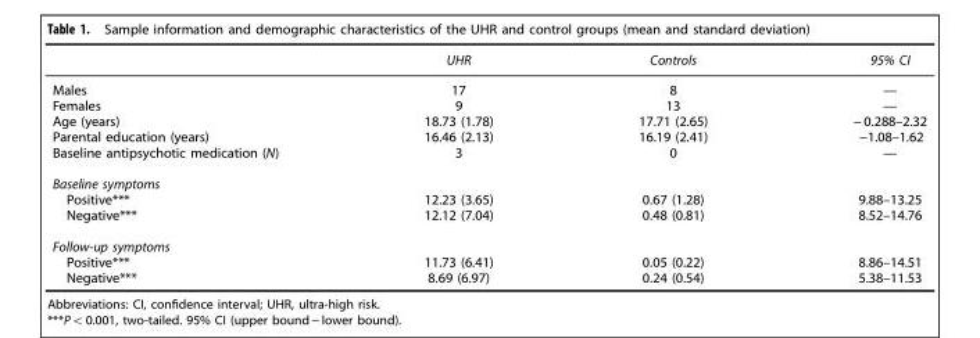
<table><thead><tr><td></td><td>UHR</td><td>Controls</td><td>95% CI</td></tr></thead><tbody><tr><td>Males</td><td>17</td><td>8</td><td>—</td></tr><tr><td>Females</td><td>9</td><td>13</td><td>—</td></tr><tr><td>Age (years)</td><td>18.73 (1.78)</td><td>17.71 (2.65)</td><td>− 0.288–2.32</td></tr><tr><td>Parental education (years)</td><td>16.46 (2.13)</td><td>16.19 (2.41)</td><td>−1.08–1.62</td></tr><tr><td>Baseline antipsychotic medication (N)</td><td>3</td><td>0</td><td>—</td></tr><tr><td colspan="4">Baseline symptoms</td></tr><tr><td>Positive***</td><td>12.23 (3.65)</td><td>0.67 (1.28)</td><td>9.88–13.25</td></tr><tr><td>Negative***</td><td>12.12 (7.04)</td><td>0.48 (0.81)</td><td>8.52–14.76</td></tr><tr><td colspan="4">Follow-up symptoms</td></tr><tr><td>Positive***</td><td>11.73 (6.41)</td><td>0.05 (0.22)</td><td>8.86–14.51</td></tr><tr><td>Negative***</td><td>8.69 (6.97)</td><td>0.24 (0.54)</td><td>5.38–11.53</td></tr></tbody></table>